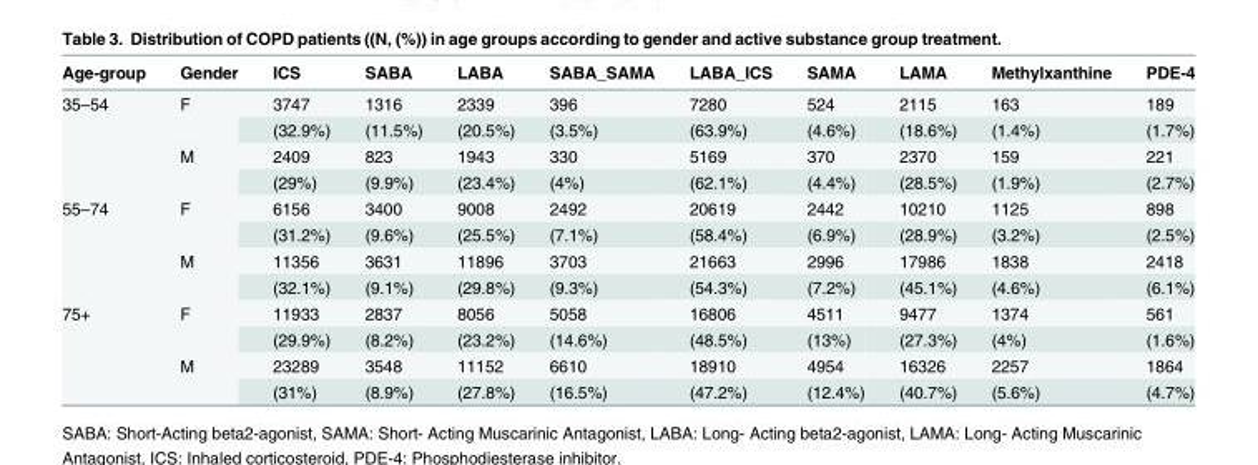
<table><thead><tr><td>Age-group</td><td>Gender</td><td>ICS</td><td>SABA</td><td>LABA</td><td>SABA_SAMA</td><td>LABA_ICS</td><td>SAMA</td><td>LAMA</td><td>Methylxanthine</td><td>PDE-4</td></tr></thead><tbody><tr><td rowspan="4">35–54</td><td rowspan="2">F</td><td>3747</td><td>1316</td><td>2339</td><td>396</td><td>7280</td><td>524</td><td>2115</td><td>163</td><td>189</td></tr><tr><td>(32.9%)</td><td>(11.5%)</td><td>(20.5%)</td><td>(3.5%)</td><td>(63.9%)</td><td>(4.6%)</td><td>(18.6%)</td><td>(1.4%)</td><td>(1.7%)</td></tr><tr><td rowspan="2">M</td><td>2409</td><td>823</td><td>1943</td><td>330</td><td>5169</td><td>370</td><td>2370</td><td>159</td><td>221</td></tr><tr><td>(29%)</td><td>(9.9%)</td><td>(23.4%)</td><td>(4%)</td><td>(62.1%)</td><td>(4.4%)</td><td>(28.5%)</td><td>(1.9%)</td><td>(2.7%)</td></tr><tr><td rowspan="4">55–74</td><td rowspan="2">F</td><td>6156</td><td>3400</td><td>9008</td><td>2492</td><td>20619</td><td>2442</td><td>10210</td><td>1125</td><td>898</td></tr><tr><td>(31.2%)</td><td>(9.6%)</td><td>(25.5%)</td><td>(7.1%)</td><td>(58.4%)</td><td>(6.9%)</td><td>(28.9%)</td><td>(3.2%)</td><td>(2.5%)</td></tr><tr><td rowspan="2">M</td><td>11356</td><td>3631</td><td>11896</td><td>3703</td><td>21663</td><td>2996</td><td>17986</td><td>1838</td><td>2418</td></tr><tr><td>(32.1%)</td><td>(9.1%)</td><td>(29.8%)</td><td>(9.3%)</td><td>(54.3%)</td><td>(7.2%)</td><td>(45.1%)</td><td>(4.6%)</td><td>(6.1%)</td></tr><tr><td rowspan="4">75+</td><td rowspan="2">F</td><td>11933</td><td>2837</td><td>8056</td><td>5058</td><td>16806</td><td>4511</td><td>9477</td><td>1374</td><td>561</td></tr><tr><td>(29.9%)</td><td>(8.2%)</td><td>(23.2%)</td><td>(14.6%)</td><td>(48.5%)</td><td>(13%)</td><td>(27.3%)</td><td>(4%)</td><td>(1.6%)</td></tr><tr><td rowspan="2">M</td><td>23289</td><td>3548</td><td>11152</td><td>6610</td><td>18910</td><td>4954</td><td>16326</td><td>2257</td><td>1864</td></tr><tr><td>(31%)</td><td>(8.9%)</td><td>(27.8%)</td><td>(16.5%)</td><td>(47.2%)</td><td>(12.4%)</td><td>(40.7%)</td><td>(5.6%)</td><td>(4.7%)</td></tr></tbody></table>